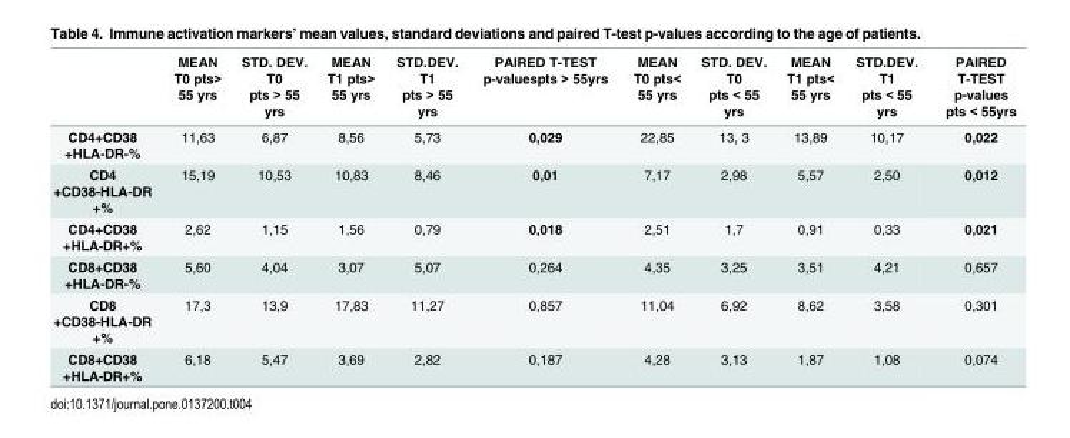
<table><thead><tr><td></td><td>MEAN T0 pts&gt; 55 yrs</td><td>STD. DEV. T0 pts &gt; 55 yrs</td><td>MEAN T1 pts&gt; 55 yrs</td><td>STD.DEV. T1 pts &gt; 55 yrs</td><td>PAIRED T-TEST p-valuespts &gt; 55yrs</td><td>MEAN T0 pts&lt; 55 yrs</td><td>STD. DEV. T0 pts &lt; 55 yrs</td><td>MEAN T1 pts&lt; 55 yrs</td><td>STD.DEV. T1 pts &lt; 55 yrs</td><td>PAIRED T-TEST p-values pts &lt; 55yrs</td></tr></thead><tbody><tr><td>CD4+CD38 +HLA-DR-%</td><td>11,63</td><td>6,87</td><td>8,56</td><td>5,73</td><td>0,029</td><td>22,85</td><td>13, 3</td><td>13,89</td><td>10,17</td><td>0,022</td></tr><tr><td>CD4 +CD38-HLA-DR +%</td><td>15,19</td><td>10,53</td><td>10,83</td><td>8,46</td><td>0,01</td><td>7,17</td><td>2,98</td><td>5,57</td><td>2,50</td><td>0,012</td></tr><tr><td>CD4+CD38 +HLA-DR+%</td><td>2,62</td><td>1,15</td><td>1,56</td><td>0,79</td><td>0,018</td><td>2,51</td><td>1,7</td><td>0,91</td><td>0,33</td><td>0,021</td></tr><tr><td>CD8+CD38 +HLA-DR-%</td><td>5,60</td><td>4,04</td><td>3,07</td><td>5,07</td><td>0,264</td><td>4,35</td><td>3,25</td><td>3,51</td><td>4,21</td><td>0,657</td></tr><tr><td>CD8 +CD38-HLA-DR +%</td><td>17,3</td><td>13,9</td><td>17,83</td><td>11,27</td><td>0,857</td><td>11,04</td><td>6,92</td><td>8,62</td><td>3,58</td><td>0,301</td></tr><tr><td>CD8+CD38 +HLA-DR+%</td><td>6,18</td><td>5,47</td><td>3,69</td><td>2,82</td><td>0,187</td><td>4,28</td><td>3,13</td><td>1,87</td><td>1,08</td><td>0,074</td></tr></tbody></table>